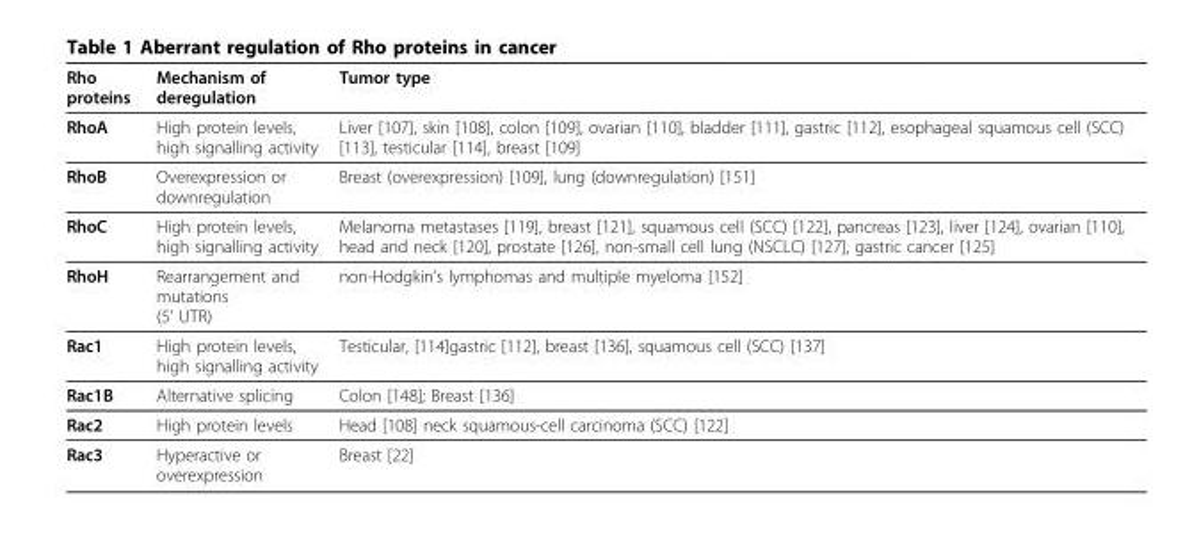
<table><thead><tr><td>Rho proteins</td><td>Mechanism of deregulation</td><td>Tumor type</td></tr></thead><tbody><tr><td>RhoA</td><td>High protein levels, high signalling activity</td><td>Liver [107], skin [108], colon [109], ovarian [110], bladder [111], gastric [112], esophageal squamous cell (SCC) [113], testicular [114], breast [109]</td></tr><tr><td>RhoB</td><td>Overexpression or downregulation</td><td>Breast (overexpression) [109], lung (downregulation) [151]</td></tr><tr><td>RhoC</td><td>High protein levels, high signalling activity</td><td>Melanoma metastases [119], breast [121], squamous cell (SCC) [122], pancreas [123], liver [124], ovarian [110], head and neck [120], prostate [126], non-small cell lung (NSCLC) [127], gastric cancer [125]</td></tr><tr><td>RhoH</td><td>Rearrangement and mutations (5’ UTR)</td><td>non-Hodgkin’s lymphomas and multiple myeloma [152]</td></tr><tr><td>Rac1</td><td>High protein levels, high signalling activity</td><td>Testicular, [114]gastric [112], breast [136], squamous cell (SCC) [137]</td></tr><tr><td>Rac1B</td><td>Alternative splicing</td><td>Colon [148]; Breast [136]</td></tr><tr><td>Rac2</td><td>High protein levels</td><td>Head [108] neck squamous-cell carcinoma (SCC) [122]</td></tr><tr><td>Rac3</td><td>Hyperactive or overexpression</td><td>Breast [22]</td></tr></tbody></table>